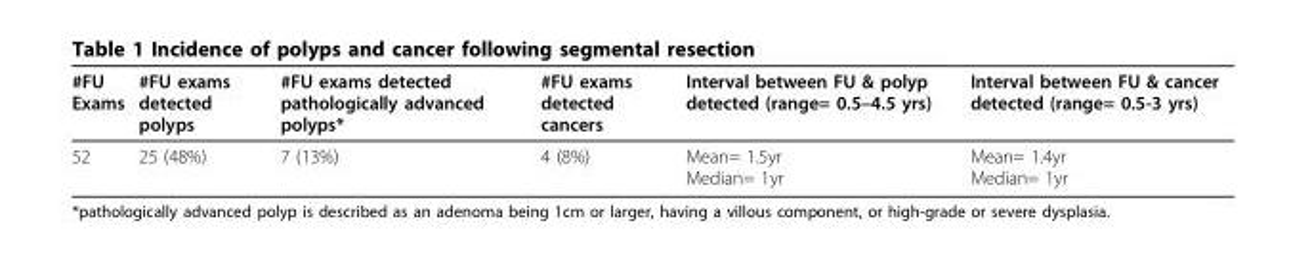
<table><thead><tr><td>#FU Exams</td><td>#FU exams detected polyps</td><td>#FU exams detected pathologically advanced polyps*</td><td>#FU exams detected cancers</td><td>Interval between FU &amp; polyp detected (range= 0.5–4.5 yrs)</td><td>Interval between FU &amp; cancer detected (range= 0.5-3 yrs)</td></tr></thead><tbody><tr><td>52</td><td>25 (48%)</td><td>7 (13%)</td><td>4 (8%)</td><td>Mean= 1.5yr Median= 1yr</td><td>Mean= 1.4yr Median= 1yr</td></tr></tbody></table>